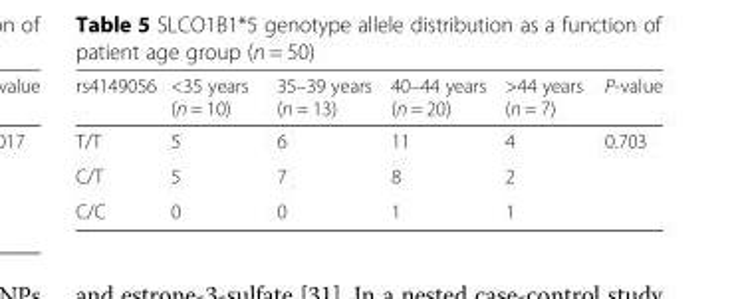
<table><thead><tr><td>rs4149056</td><td>&lt;35 years (n = 10)</td><td>35–39 years (n = 13)</td><td>40–44 years (n = 20)</td><td>&gt;44 years (n = 7)</td><td>P-value</td></tr></thead><tbody><tr><td>T/T</td><td>5</td><td>6</td><td>11</td><td>4</td><td rowspan="3">0.703</td></tr><tr><td>C/T</td><td>5</td><td>7</td><td>8</td><td>2</td></tr><tr><td>C/C</td><td>0</td><td>0</td><td>1</td><td>1</td></tr></tbody></table>